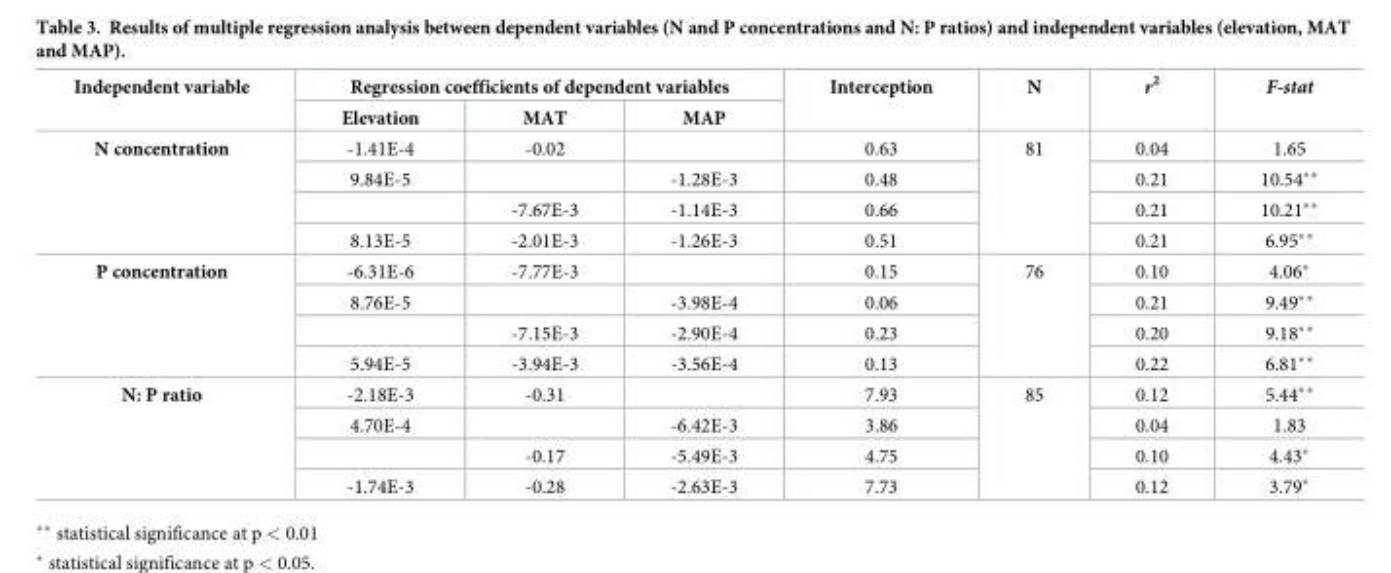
<table><thead><tr><td rowspan="2">Independent variable</td><td colspan="3">Regression coefficients of dependent variables</td><td rowspan="2">Interception</td><td rowspan="2">N</td><td rowspan="2">r<sup>2</sup></td><td rowspan="2">F-stat</td></tr><tr><td>Elevation</td><td>MAT</td><td>MAP</td></tr></thead><tbody><tr><td rowspan="4">N concentration</td><td>-1.41E-4</td><td>-0.02</td><td></td><td>0.63</td><td rowspan="4">81</td><td>0.04</td><td>1.65</td></tr><tr><td>9.84E-5</td><td></td><td>-1.28E-3</td><td>0.48</td><td>0.21</td><td>10.54**</td></tr><tr><td></td><td>-7.67E-3</td><td>-1.14E-3</td><td>0.66</td><td>0.21</td><td>10.21**</td></tr><tr><td>8.13E-5</td><td>-2.01E-3</td><td>-1.26E-3</td><td>0.51</td><td>0.21</td><td>6.95**</td></tr><tr><td rowspan="4">P concentration</td><td>-6.31E-6</td><td>-7.77E-3</td><td></td><td>0.15</td><td rowspan="4">76</td><td>0.10</td><td>4.06*</td></tr><tr><td>8.76E-5</td><td></td><td>-3.98E-4</td><td>0.06</td><td>0.21</td><td>9.49**</td></tr><tr><td></td><td>-7.15E-3</td><td>-2.90E-4</td><td>0.23</td><td>0.20</td><td>9.18**</td></tr><tr><td>5.94E-5</td><td>-3.94E-3</td><td>-3.56E-4</td><td>0.13</td><td>0.22</td><td>6.81**</td></tr><tr><td rowspan="4">N: P ratio</td><td>-2.18E-3</td><td>-0.31</td><td></td><td>7.93</td><td rowspan="4">85</td><td>0.12</td><td>5.44**</td></tr><tr><td>4.70E-4</td><td></td><td>-6.42E-3</td><td>3.86</td><td>0.04</td><td>1.83</td></tr><tr><td></td><td>-0.17</td><td>-5.49E-3</td><td>4.75</td><td>0.10</td><td>4.43*</td></tr><tr><td>-1.74E-3</td><td>-0.28</td><td>-2.63E-3</td><td>7.73</td><td>0.12</td><td>3.79*</td></tr></tbody></table>